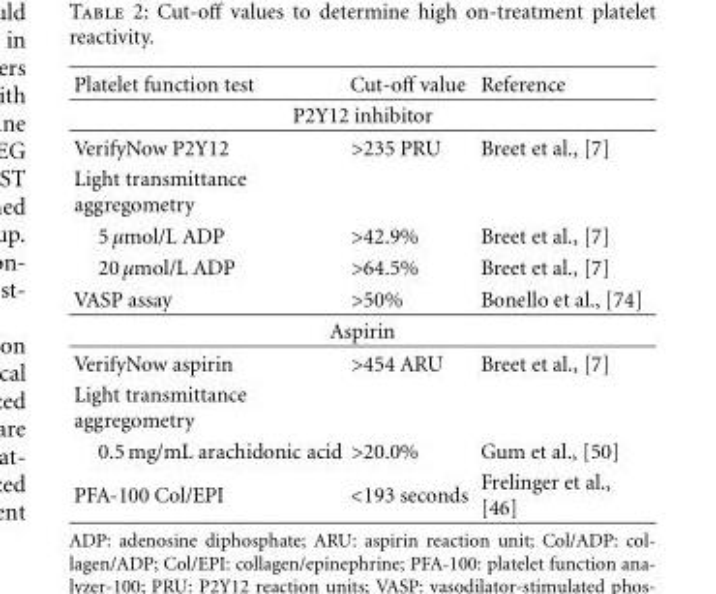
<table><thead><tr><td>Platelet function test</td><td>Cut-off value</td><td>Reference</td></tr></thead><tbody><tr><td colspan="3">P2Y12 inhibitor</td></tr><tr><td>VerifyNow P2Y12</td><td>&gt;235 PRU</td><td>Breet et al., [7]</td></tr><tr><td colspan="3">Light transmittance aggregometry</td></tr><tr><td>5 µmol/L ADP</td><td>&gt;42.9%</td><td>Breet et al., [7]</td></tr><tr><td>20 µmol/L ADP</td><td>&gt;64.5%</td><td>Breet et al., [7]</td></tr><tr><td>VASP assay</td><td>&gt;50%</td><td>Bonello et al., [74]</td></tr><tr><td colspan="3">Aspirin</td></tr><tr><td>VerifyNow aspirin</td><td>&gt;454 ARU</td><td>Breet et al., [7]</td></tr><tr><td colspan="3">Light transmittance aggregometry</td></tr><tr><td>0.5 mg/mL arachidonic acid</td><td>&gt;20.0%</td><td>Gum et al., [50]</td></tr><tr><td>PFA-100 Col/EPI</td><td>&lt;193 seconds</td><td>Frelinger et al., [46]</td></tr></tbody></table>